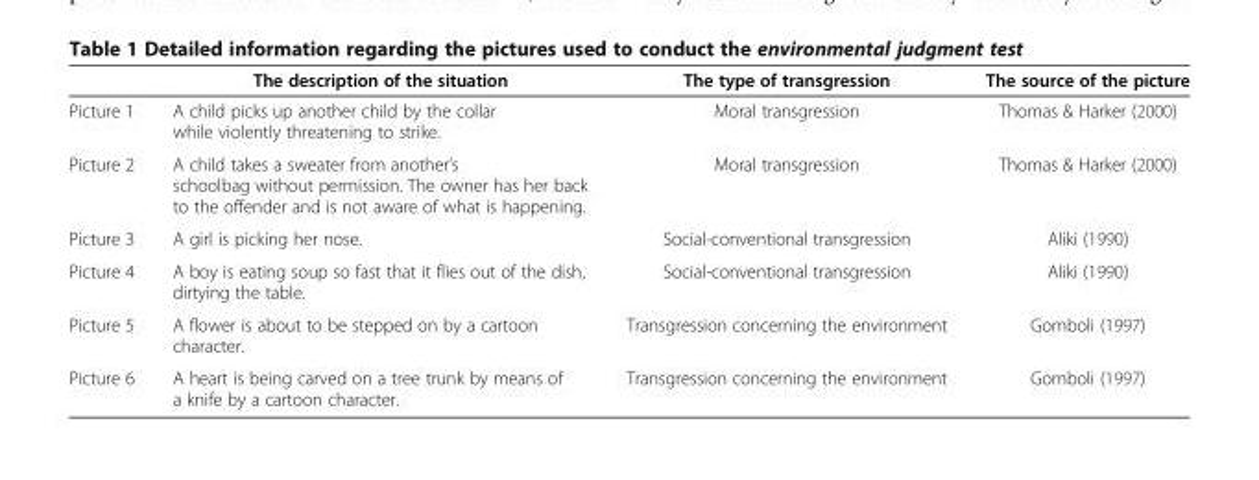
<table><thead><tr><td></td><td>The description of the situation</td><td>The type of transgression</td><td>The source of the picture</td></tr></thead><tbody><tr><td>Picture 1</td><td>A child picks up another child by the collar while violently threatening to strike.</td><td>Moral transgression</td><td>Thomas &amp; Harker (2000)</td></tr><tr><td>Picture 2</td><td>A child takes a sweater from another’s schoolbag without permission. The owner has her back to the offender and is not aware of what is happening.</td><td>Moral transgression</td><td>Thomas &amp; Harker (2000)</td></tr><tr><td>Picture 3</td><td>A girl is picking her nose.</td><td>Social-conventional transgression</td><td>Aliki (1990)</td></tr><tr><td>Picture 4</td><td>A boy is eating soup so fast that it flies out of the dish, dirtying the table.</td><td>Social-conventional transgression</td><td>Aliki (1990)</td></tr><tr><td>Picture 5</td><td>A flower is about to be stepped on by a cartoon character.</td><td>Transgression concerning the environment</td><td>Gomboli (1997)</td></tr><tr><td>Picture 6</td><td>A heart is being carved on a tree trunk by means of a knife by a cartoon character.</td><td>Transgression concerning the environment</td><td>Gomboli (1997)</td></tr></tbody></table>